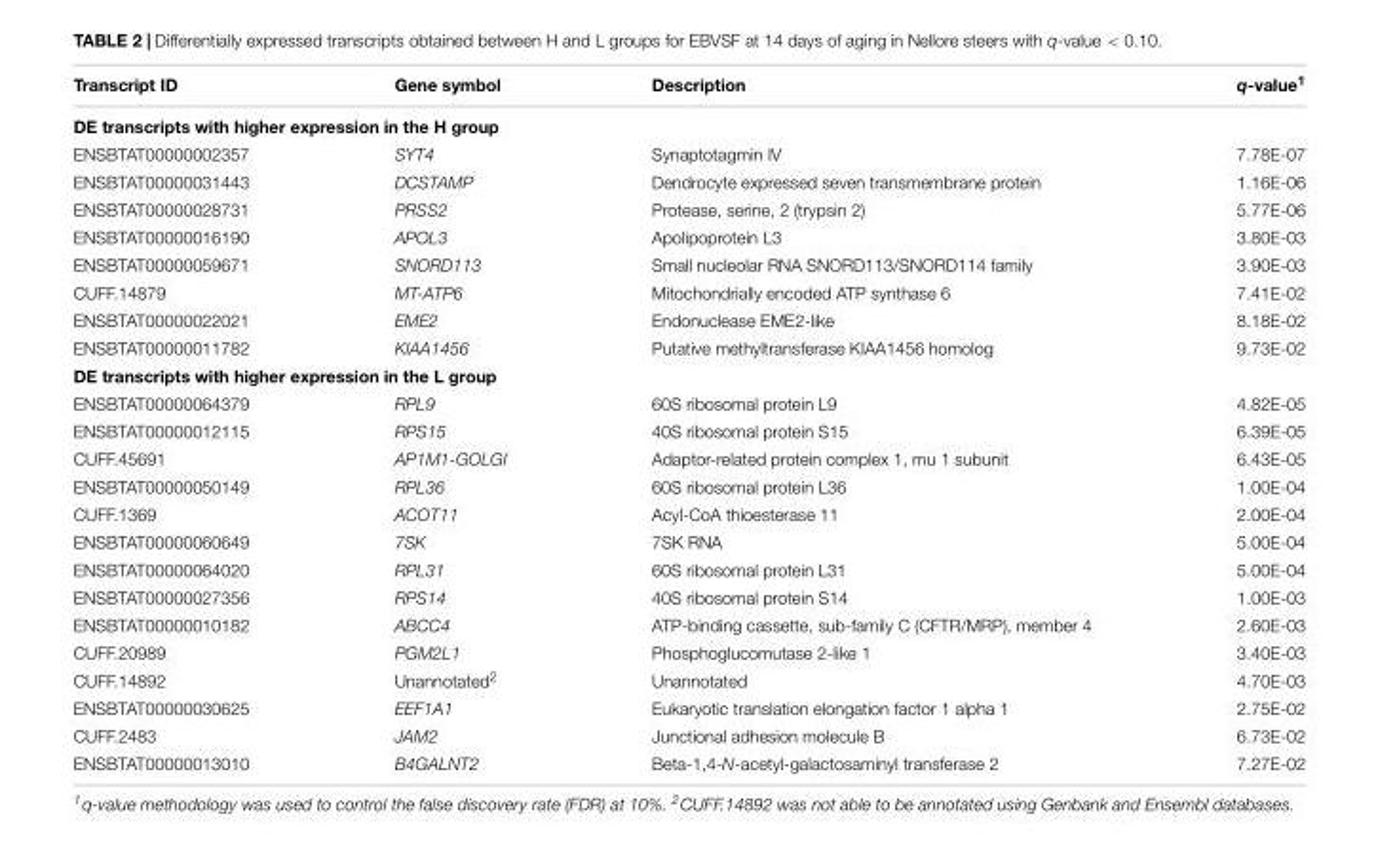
<table><thead><tr><td>Transcript ID</td><td>Gene symbol</td><td>Description</td><td>q-value<sup>1</sup></td></tr></thead><tbody><tr><td colspan="4">DE transcripts with higher expression in the H group</td></tr><tr><td>ENSBTAT00000002357</td><td>SYT4</td><td>Synaptotagmin IV</td><td>7.78E-07</td></tr><tr><td>ENSBTAT00000031443</td><td>DCSTAMP</td><td>Dendrocyte expressed seven transmembrane protein</td><td>1.16E-06</td></tr><tr><td>ENSBTAT00000028731</td><td>PRSS2</td><td>Protease, serine, 2 (trypsin 2)</td><td>5.77E-06</td></tr><tr><td>ENSBTAT00000016190</td><td>APOL3</td><td>Apolipoprotein L3</td><td>3.80E-03</td></tr><tr><td>ENSBTAT00000059671</td><td>SNORD113</td><td>Small nucleolar RNA SNORD113/SNORD114 family</td><td>3.90E-03</td></tr><tr><td>CUFF.14879</td><td>MT-ATP6</td><td>Mitochondrially encoded ATP synthase 6</td><td>7.41E-02</td></tr><tr><td>ENSBTAT00000022021</td><td>EME2</td><td>Endonuclease EME2-like</td><td>8.18E-02</td></tr><tr><td>ENSBTAT00000011782</td><td>KIAA1456</td><td>Putative methyltransferase KIAA1456 homolog</td><td>9.73E-02</td></tr><tr><td colspan="4">DE transcripts with higher expression in the L group</td></tr><tr><td>ENSBTAT00000064379</td><td>RPL9</td><td>60S ribosomal protein L9</td><td>4.82E-05</td></tr><tr><td>ENSBTAT00000012115</td><td>RPS15</td><td>40S ribosomal protein S15</td><td>6.39E-05</td></tr><tr><td>CUFF.45691</td><td>AP1M1-GOLGI</td><td>Adaptor-related protein complex 1, mu 1 subunit</td><td>6.43E-05</td></tr><tr><td>ENSBTAT00000050149</td><td>RPL36</td><td>60S ribosomal protein L36</td><td>1.00E-04</td></tr><tr><td>CUFF.1369</td><td>ACOT11</td><td>Acyl-CoA thioesterase 11</td><td>2.00E-04</td></tr><tr><td>ENSBTAT00000060649</td><td>7SK</td><td>7SK RNA</td><td>5.00E-04</td></tr><tr><td>ENSBTAT00000064020</td><td>RPL31</td><td>60S ribosomal protein L31</td><td>5.00E-04</td></tr><tr><td>ENSBTAT00000027356</td><td>RPS14</td><td>40S ribosomal protein S14</td><td>1.00E-03</td></tr><tr><td>ENSBTAT00000010182</td><td>ABCC4</td><td>ATP-binding cassette, sub-family C (CFTR/MRP), member 4</td><td>2.60E-03</td></tr><tr><td>CUFF.20989</td><td>PGM2L1</td><td>Phosphoglucomutase 2-like 1</td><td>3.40E-03</td></tr><tr><td>CUFF.14892</td><td>Unannotated<sup>2</sup></td><td>Unannotated</td><td>4.70E-03</td></tr><tr><td>ENSBTAT00000030625</td><td>EEF1A1</td><td>Eukaryotic translation elongation factor 1 alpha 1</td><td>2.75E-02</td></tr><tr><td>CUFF.2483</td><td>JAM2</td><td>Junctional adhesion molecule B</td><td>6.73E-02</td></tr><tr><td>ENSBTAT00000013010</td><td>B4GALNT2</td><td>Beta-1,4-N-acetyl-galactosaminyl transferase 2</td><td>7.27E-02</td></tr></tbody></table>